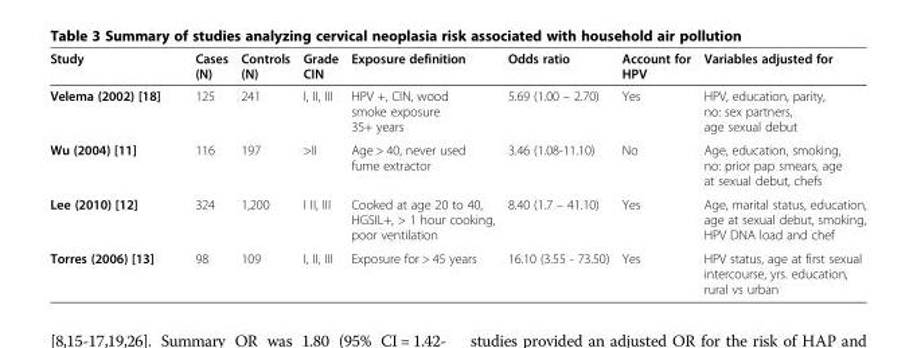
<table><thead><tr><td>Study</td><td>Cases (N)</td><td>Controls (N)</td><td>Grade CIN</td><td>Exposure definition</td><td>Odds ratio</td><td>Account for HPV</td><td>Variables adjusted for</td></tr></thead><tbody><tr><td>Velema (2002) [18]</td><td>125</td><td>241</td><td>I, II, III</td><td>HPV +, CIN, wood smoke exposure 35+ years</td><td>5.69 (1.00 – 2.70)</td><td>Yes</td><td>HPV, education, parity, no: sex partners, age sexual debut</td></tr><tr><td>Wu (2004) [11]</td><td>116</td><td>197</td><td>&gt;II</td><td>Age &gt; 40, never used fume extractor</td><td>3.46 (1.08-11.10)</td><td>No</td><td>Age, education, smoking, no: prior pap smears, age at sexual debut, chefs</td></tr><tr><td>Lee (2010) [12]</td><td>324</td><td>1,200</td><td>I II, III</td><td>Cooked at age 20 to 40, HGSIL+, &gt; 1 hour cooking, poor ventilation</td><td>8.40 (1.7 – 41.10)</td><td>Yes</td><td>Age, marital status, education, age at sexual debut, smoking, HPV DNA load and chef</td></tr><tr><td>Torres (2006) [13]</td><td>98</td><td>109</td><td>I, II, III</td><td>Exposure for &gt; 45 years</td><td>16.10 (3.55 - 73.50)</td><td>Yes</td><td>HPV status, age at first sexual intercourse, yrs. education, rural vs urban</td></tr></tbody></table>